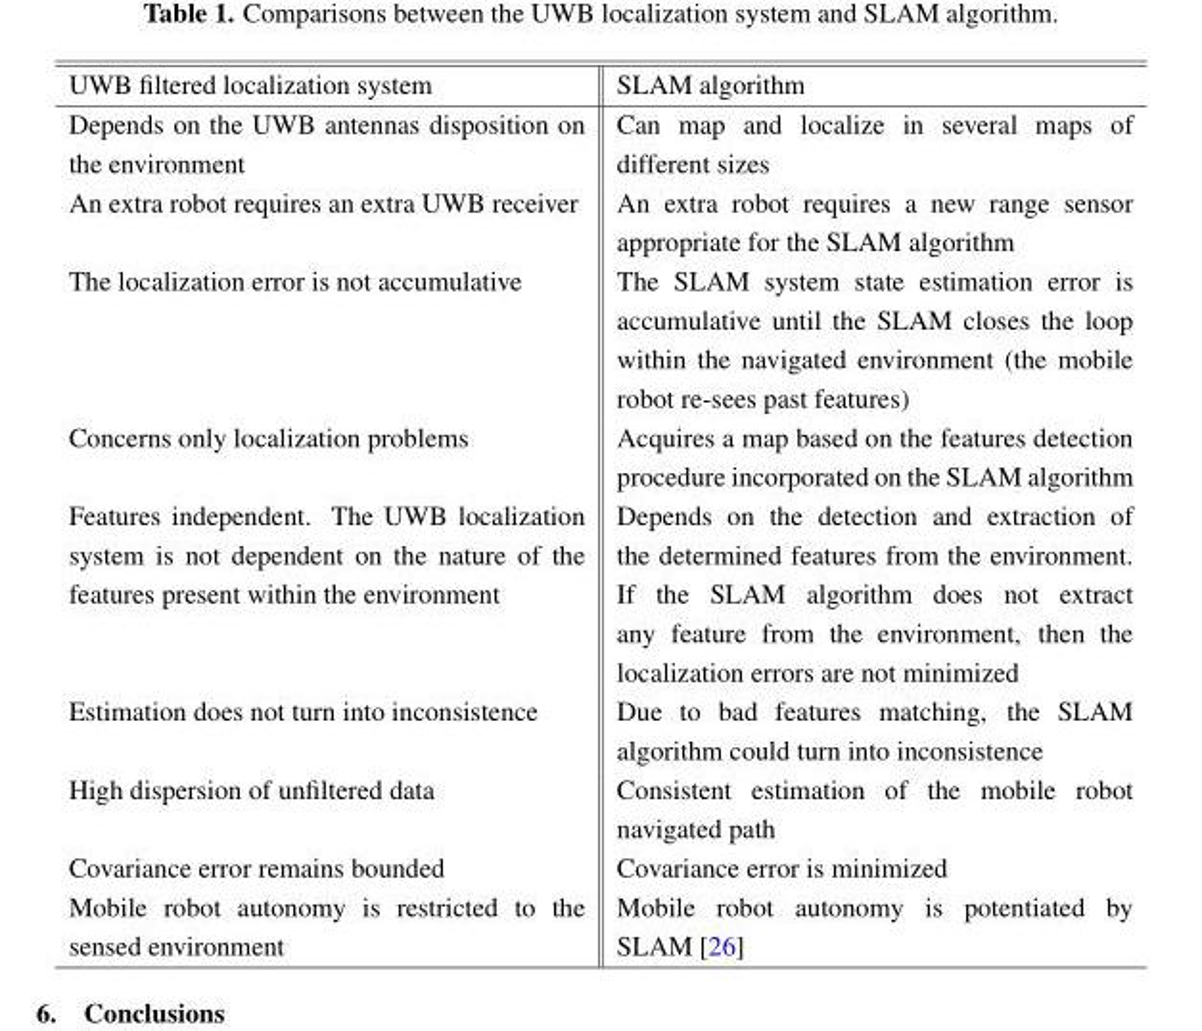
<table><thead><tr><td>UWB filtered localization system</td><td>SLAM algorithm</td></tr></thead><tbody><tr><td>Depends on the UWB antennas disposition on the environment</td><td>Can map and localize in several maps of different sizes</td></tr><tr><td>An extra robot requires an extra UWB receiver</td><td>An extra robot requires a new range sensor appropriate for the SLAM algorithm</td></tr><tr><td>The localization error is not accumulative</td><td>The SLAM system state estimation error is accumulative until the SLAM closes the loop within the navigated environment (the mobile robot re-sees past features)</td></tr><tr><td>Concerns only localization problems</td><td>Acquires a map based on the features detection procedure incorporated on the SLAM algorithm</td></tr><tr><td>Features independent. The UWB localization system is not dependent on the nature of the features present within the environment</td><td>Depends on the detection and extraction of the determined features from the environment. If the SLAM algorithm does not extract any feature from the environment, then the localization errors are not minimized</td></tr><tr><td>Estimation does not turn into inconsistence</td><td>Due to bad features matching, the SLAM algorithm could turn into inconsistence</td></tr><tr><td>High dispersion of unfiltered data</td><td>Consistent estimation of the mobile robot navigated path</td></tr><tr><td>Covariance error remains bounded</td><td>Covariance error is minimized</td></tr><tr><td>Mobile robot autonomy is restricted to the sensed environment</td><td>Mobile robot autonomy is potentiated by SLAM [26]</td></tr></tbody></table>